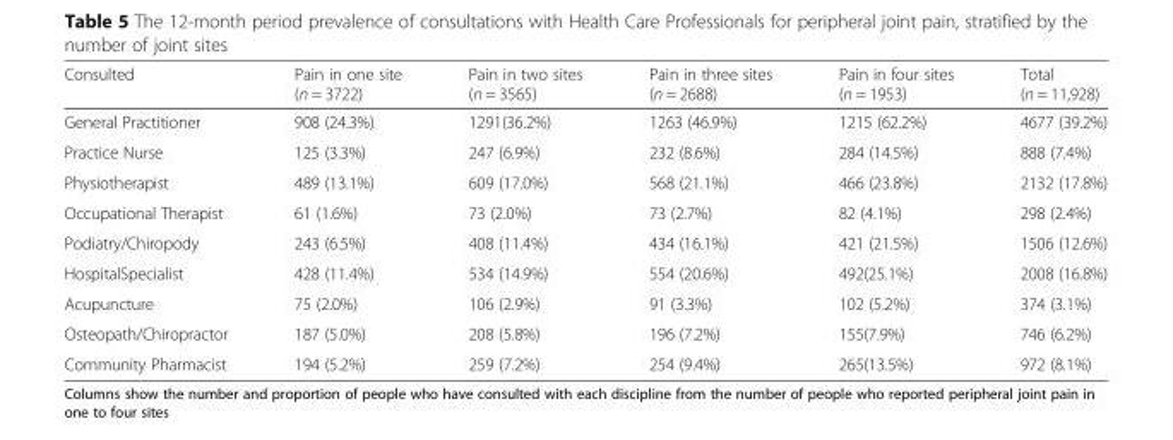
<table><thead><tr><td>Consulted</td><td>Pain in one site (n = 3722)</td><td>Pain in two sites (n = 3565)</td><td>Pain in three sites (n = 2688)</td><td>Pain in four sites (n = 1953)</td><td>Total (n = 11,928)</td></tr></thead><tbody><tr><td>General Practitioner</td><td>908 (24.3%)</td><td>1291(36.2%)</td><td>1263 (46.9%)</td><td>1215 (62.2%)</td><td>4677 (39.2%)</td></tr><tr><td>Practice Nurse</td><td>125 (3.3%)</td><td>247 (6.9%)</td><td>232 (8.6%)</td><td>284 (14.5%)</td><td>888 (7.4%)</td></tr><tr><td>Physiotherapist</td><td>489 (13.1%)</td><td>609 (17.0%)</td><td>568 (21.1%)</td><td>466 (23.8%)</td><td>2132 (17.8%)</td></tr><tr><td>Occupational Therapist</td><td>61 (1.6%)</td><td>73 (2.0%)</td><td>73 (2.7%)</td><td>82 (4.1%)</td><td>298 (2.4%)</td></tr><tr><td>Podiatry/Chiropody</td><td>243 (6.5%)</td><td>408 (11.4%)</td><td>434 (16.1%)</td><td>421 (21.5%)</td><td>1506 (12.6%)</td></tr><tr><td>HospitalSpecialist</td><td>428 (11.4%)</td><td>534 (14.9%)</td><td>554 (20.6%)</td><td>492(25.1%)</td><td>2008 (16.8%)</td></tr><tr><td>Acupuncture</td><td>75 (2.0%)</td><td>106 (2.9%)</td><td>91 (3.3%)</td><td>102 (5.2%)</td><td>374 (3.1%)</td></tr><tr><td>Osteopath/Chiropractor</td><td>187 (5.0%)</td><td>208 (5.8%)</td><td>196 (7.2%)</td><td>155(7.9%)</td><td>746 (6.2%)</td></tr><tr><td>Community Pharmacist</td><td>194 (5.2%)</td><td>259 (7.2%)</td><td>254 (9.4%)</td><td>265(13.5%)</td><td>972 (8.1%)</td></tr></tbody></table>